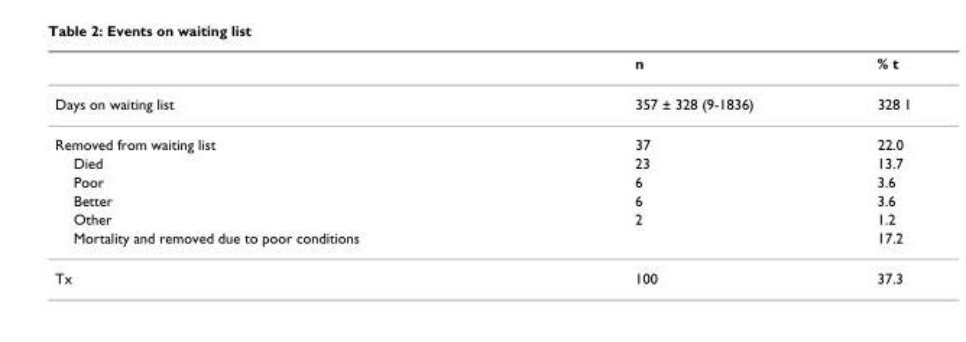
<table><thead><tr><td></td><td>n</td><td>% t</td></tr></thead><tbody><tr><td>Days on waiting list</td><td>357 ± 328 (9-1836)</td><td>328 1</td></tr><tr><td>Removed from waiting list</td><td>37</td><td>22.0</td></tr><tr><td>Died</td><td>23</td><td>13.7</td></tr><tr><td>Poor</td><td>6</td><td>3.6</td></tr><tr><td>Better</td><td>6</td><td>3.6</td></tr><tr><td>Other</td><td>2</td><td>1.2</td></tr><tr><td>Mortality and removed due to poor conditions</td><td></td><td>17.2</td></tr><tr><td>Tx</td><td>100</td><td>37.3</td></tr></tbody></table>